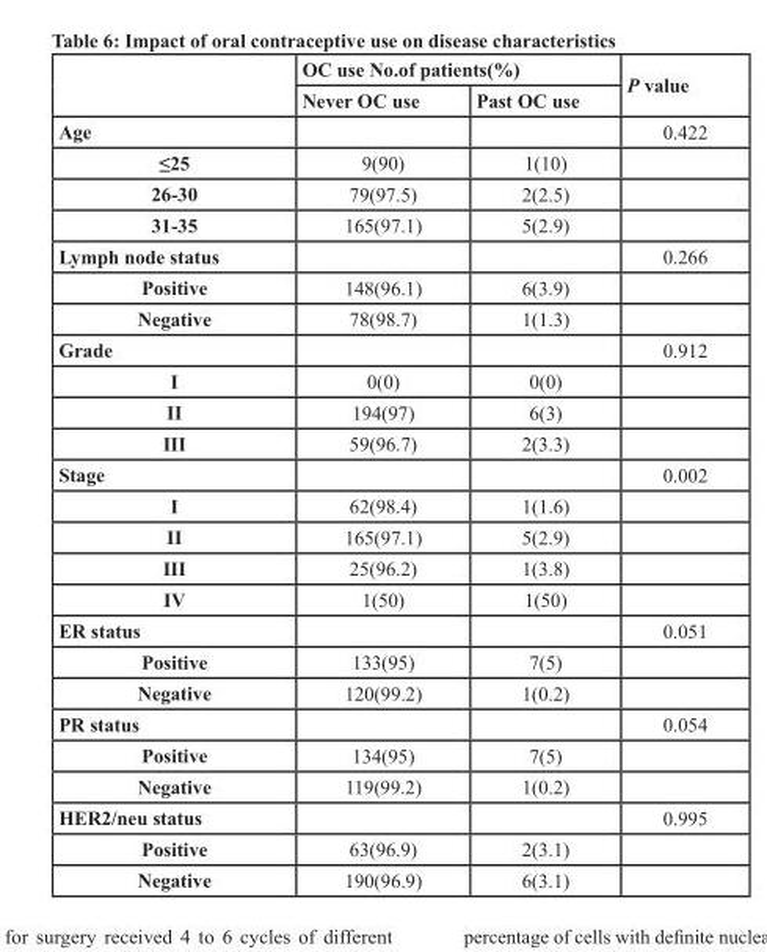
<table><thead><tr><td rowspan="2"></td><td colspan="2">OC use No.of patients(%)</td><td rowspan="2">P value</td></tr><tr><td>Never OC use</td><td>Past OC use</td></tr></thead><tbody><tr><td>Age</td><td></td><td></td><td>0.422</td></tr><tr><td>≤25</td><td>9(90)</td><td>1(10)</td><td></td></tr><tr><td>26-30</td><td>79(97.5)</td><td>2(2.5)</td><td></td></tr><tr><td>31-35</td><td>165(97.1)</td><td>5(2.9)</td><td></td></tr><tr><td>Lymph node status</td><td></td><td></td><td>0.266</td></tr><tr><td>Positive</td><td>148(96.1)</td><td>6(3.9)</td><td></td></tr><tr><td>Negative</td><td>78(98.7)</td><td>1(1.3)</td><td></td></tr><tr><td>Grade</td><td></td><td></td><td>0.912</td></tr><tr><td>I</td><td>0(0)</td><td>0(0)</td><td></td></tr><tr><td>II</td><td>194(97)</td><td>6(3)</td><td></td></tr><tr><td>III</td><td>59(96.7)</td><td>2(3.3)</td><td></td></tr><tr><td>Stage</td><td></td><td></td><td>0.002</td></tr><tr><td>I</td><td>62(98.4)</td><td>1(1.6)</td><td></td></tr><tr><td>II</td><td>165(97.1)</td><td>5(2.9)</td><td></td></tr><tr><td>III</td><td>25(96.2)</td><td>1(3.8)</td><td></td></tr><tr><td>IV</td><td>1(50)</td><td>1(50)</td><td></td></tr><tr><td>ER status</td><td></td><td></td><td>0.051</td></tr><tr><td>Positive</td><td>133(95)</td><td>7(5)</td><td></td></tr><tr><td>Negative</td><td>120(99.2)</td><td>1(0.2)</td><td></td></tr><tr><td>PR status</td><td></td><td></td><td>0.054</td></tr><tr><td>Positive</td><td>134(95)</td><td>7(5)</td><td></td></tr><tr><td>Negative</td><td>119(99.2)</td><td>1(0.2)</td><td></td></tr><tr><td>HER2/neu status</td><td></td><td></td><td>0.995</td></tr><tr><td>Positive</td><td>63(96.9)</td><td>2(3.1)</td><td></td></tr><tr><td>Negative</td><td>190(96.9)</td><td>6(3.1)</td><td></td></tr></tbody></table>